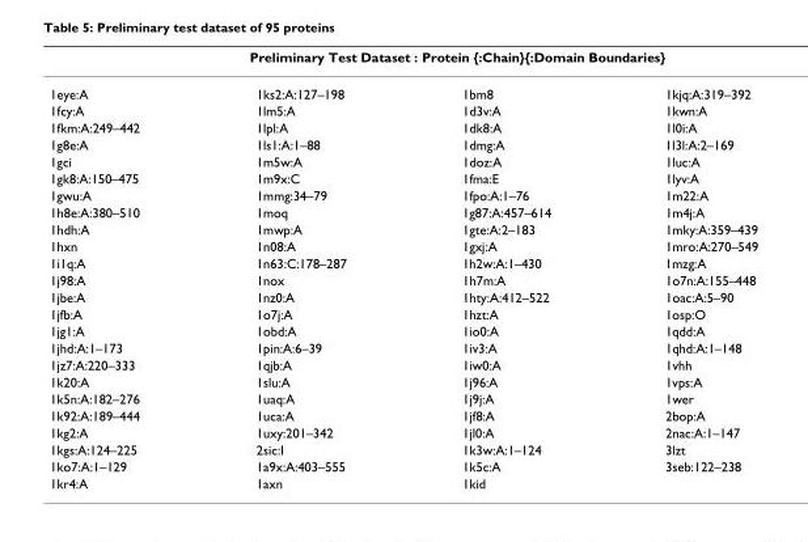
<table><thead><tr><td colspan="4">Preliminary Test Dataset : Protein {:Chain}{:Domain Boundaries}</td></tr><tr><td>1eye:A</td><td>1ks2:A:127–198</td><td>1bm8</td><td>1kjq:A:319–392</td></tr></thead><tbody><tr><td>1fcy:A</td><td>1lm5:A</td><td>1d3v:A</td><td>1kwn:A</td></tr><tr><td>1fkm:A:249–442</td><td>1lpl:A</td><td>1dk8:A</td><td>1l0i:A</td></tr><tr><td>1g8e:A</td><td>1ls1:A:1–88</td><td>1dmg:A</td><td>1l3l:A:2–169</td></tr><tr><td>1gci</td><td>1m5w:A</td><td>1doz:A</td><td>1luc:A</td></tr><tr><td>1gk8:A:150–475</td><td>1m9x:C</td><td>1fma:E</td><td>1lyv:A</td></tr><tr><td>1gwu:A</td><td>1mmg:34–79</td><td>1fpo:A:1–76</td><td>1m22:A</td></tr><tr><td>1h8e:A:380–510</td><td>1moq</td><td>1g87:A:457–614</td><td>1m4j:A</td></tr><tr><td>1hdh:A</td><td>1mwp:A</td><td>1gte:A:2–183</td><td>1mky:A:359–439</td></tr><tr><td>1hxn</td><td>1n08:A</td><td>1gxj:A</td><td>1mro:A:270–549</td></tr><tr><td>1i1q:A</td><td>1n63:C:178–287</td><td>1h2w:A:1–430</td><td>1mzg:A</td></tr><tr><td>1j98:A</td><td>1nox</td><td>1h7m:A</td><td>1o7n:A:155–448</td></tr><tr><td>1jbe:A</td><td>1nz0:A</td><td>1hty:A:412–522</td><td>1oac:A:5–90</td></tr><tr><td>1jfb:A</td><td>1o7j:A</td><td>1hzt:A</td><td>1osp:O</td></tr><tr><td>1jg1:A</td><td>1obd:A</td><td>1io0:A</td><td>1qdd:A</td></tr><tr><td>1jhd:A:1–173</td><td>1pin:A:6–39</td><td>1iv3:A</td><td>1qhd:A:1–148</td></tr><tr><td>1jz7:A:220–333</td><td>1qjb:A</td><td>1iw0:A</td><td>1vhh</td></tr><tr><td>1k20:A</td><td>1slu:A</td><td>1j96:A</td><td>1vps:A</td></tr><tr><td>1k5n:A:182–276</td><td>1uaq:A</td><td>1j9j:A</td><td>1wer</td></tr><tr><td>1k92:A:189–444</td><td>1uca:A</td><td>1jf8:A</td><td>2bop:A</td></tr><tr><td>1kg2:A</td><td>1uxy:201–342</td><td>1jl0:A</td><td>2nac:A:1–147</td></tr><tr><td>1kgs:A:124–225</td><td>2sic:I</td><td>1k3w:A:1–124</td><td>3lzt</td></tr><tr><td>1ko7:A:1–129</td><td>1a9x:A:403–555</td><td>1k5c:A</td><td>3seb:122–238</td></tr><tr><td>1kr4:A</td><td>1axn</td><td>1kid</td><td></td></tr></tbody></table>